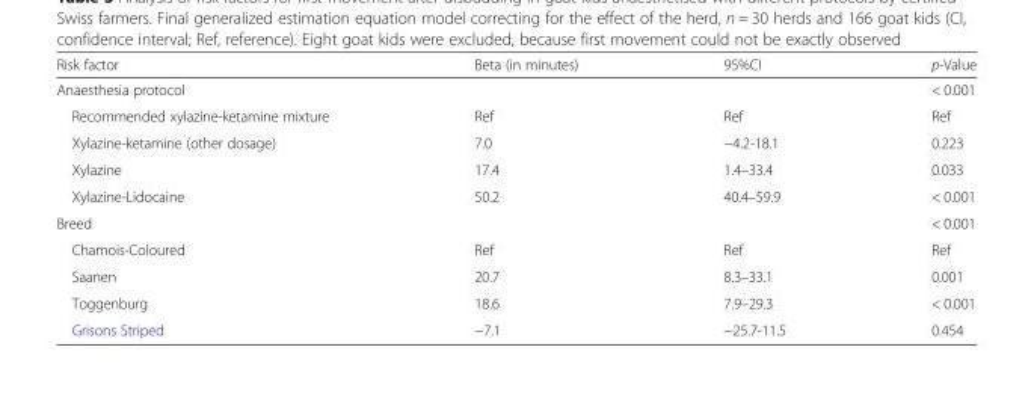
<table><thead><tr><td>Risk factor</td><td>Beta (in minutes)</td><td>95%CI</td><td>p-Value</td></tr></thead><tbody><tr><td colspan="3">Anaesthesia protocol</td><td>&lt; 0.001</td></tr><tr><td>Recommended xylazine-ketamine mixture</td><td>Ref</td><td>Ref</td><td>Ref</td></tr><tr><td>Xylazine-ketamine (other dosage)</td><td>7.0</td><td>−4.2-18.1</td><td>0.223</td></tr><tr><td>Xylazine</td><td>17.4</td><td>1.4–33.4</td><td>0.033</td></tr><tr><td>Xylazine-Lidocaine</td><td>50.2</td><td>40.4–59.9</td><td>&lt; 0.001</td></tr><tr><td colspan="3">Breed</td><td>&lt; 0.001</td></tr><tr><td>Chamois-Coloured</td><td>Ref</td><td>Ref</td><td>Ref</td></tr><tr><td>Saanen</td><td>20.7</td><td>8.3–33.1</td><td>0.001</td></tr><tr><td>Toggenburg</td><td>18.6</td><td>7.9–29.3</td><td>&lt; 0.001</td></tr><tr><td>Grisons Striped</td><td>−7.1</td><td>−25.7-11.5</td><td>0.454</td></tr></tbody></table>